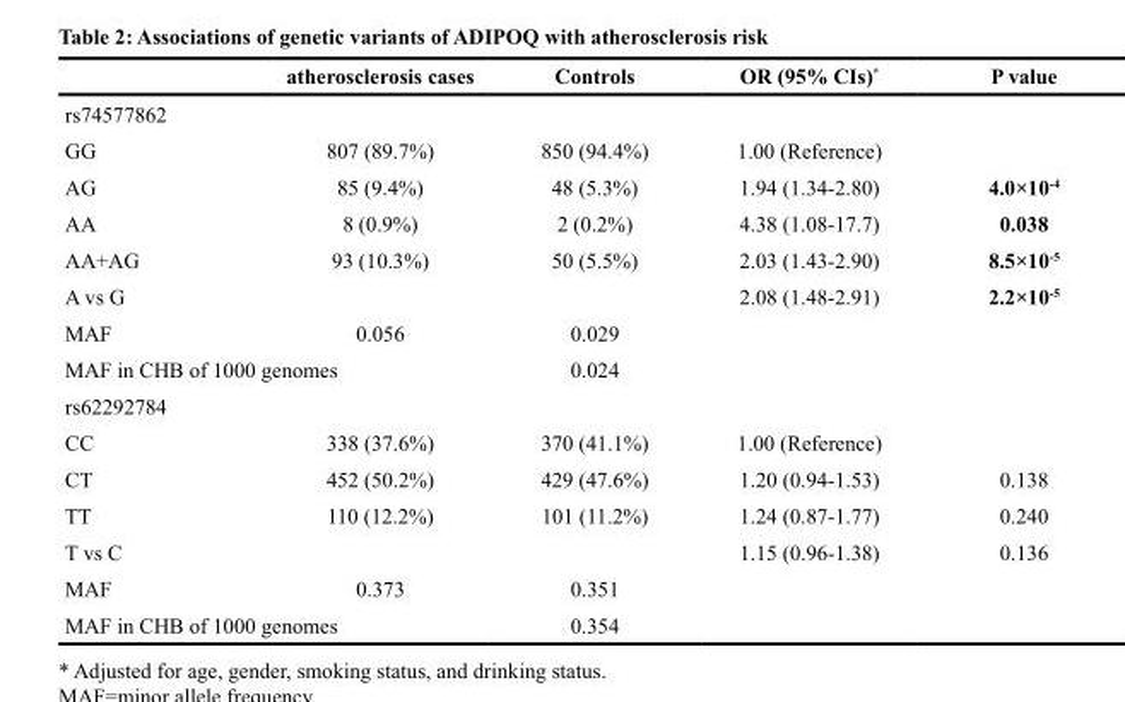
<table><thead><tr><td></td><td>atherosclerosis cases</td><td>Controls</td><td>OR (95% CIs)*</td><td>P value</td></tr></thead><tbody><tr><td colspan="5">rs74577862</td></tr><tr><td>GG</td><td>807 (89.7%)</td><td>850 (94.4%)</td><td>1.00 (Reference)</td><td></td></tr><tr><td>AG</td><td>85 (9.4%)</td><td>48 (5.3%)</td><td>1.94 (1.34-2.80)</td><td>4.0×10<sup>-4</sup></td></tr><tr><td>AA</td><td>8 (0.9%)</td><td>2 (0.2%)</td><td>4.38 (1.08-17.7)</td><td>0.038</td></tr><tr><td>AA+AG</td><td>93 (10.3%)</td><td>50 (5.5%)</td><td>2.03 (1.43-2.90)</td><td>8.5×10<sup>-5</sup></td></tr><tr><td>A vs G</td><td></td><td></td><td>2.08 (1.48-2.91)</td><td>2.2×10<sup>-5</sup></td></tr><tr><td>MAF</td><td>0.056</td><td>0.029</td><td></td><td></td></tr><tr><td colspan="2">MAF in CHB of 1000 genomes</td><td>0.024</td><td></td><td></td></tr><tr><td colspan="5">rs62292784</td></tr><tr><td>CC</td><td>338 (37.6%)</td><td>370 (41.1%)</td><td>1.00 (Reference)</td><td></td></tr><tr><td>CT</td><td>452 (50.2%)</td><td>429 (47.6%)</td><td>1.20 (0.94-1.53)</td><td>0.138</td></tr><tr><td>TT</td><td>110 (12.2%)</td><td>101 (11.2%)</td><td>1.24 (0.87-1.77)</td><td>0.240</td></tr><tr><td>T vs C</td><td></td><td></td><td>1.15 (0.96-1.38)</td><td>0.136</td></tr><tr><td>MAF</td><td>0.373</td><td>0.351</td><td></td><td></td></tr><tr><td colspan="2">MAF in CHB of 1000 genomes</td><td>0.354</td><td></td><td></td></tr></tbody></table>